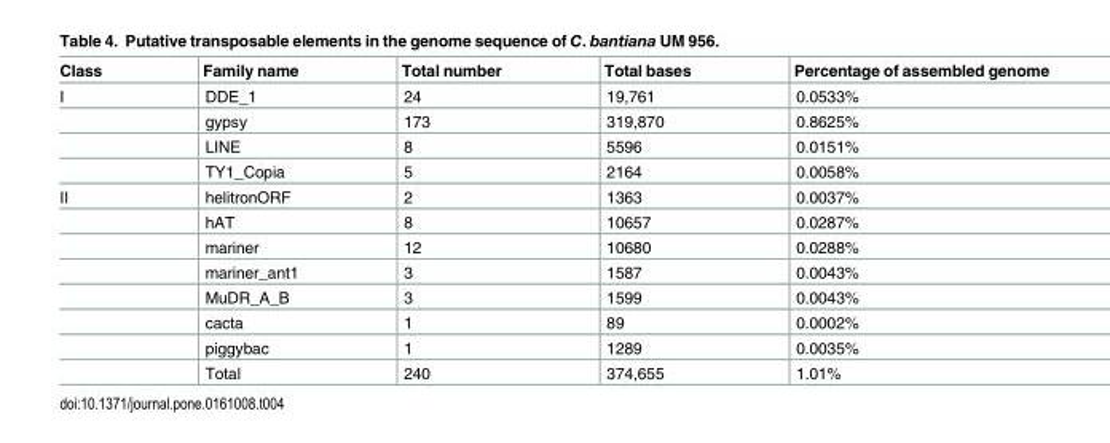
<table><thead><tr><td>Class</td><td>Family name</td><td>Total number</td><td>Total bases</td><td>Percentage of assembled genome</td></tr></thead><tbody><tr><td rowspan="4">I</td><td>DDE_1</td><td>24</td><td>19,761</td><td>0.0533%</td></tr><tr><td>gypsy</td><td>173</td><td>319,870</td><td>0.8625%</td></tr><tr><td>LINE</td><td>8</td><td>5596</td><td>0.0151%</td></tr><tr><td>TY1_Copia</td><td>5</td><td>2164</td><td>0.0058%</td></tr><tr><td rowspan="8">II</td><td>helitronORF</td><td>2</td><td>1363</td><td>0.0037%</td></tr><tr><td>hAT</td><td>8</td><td>10657</td><td>0.0287%</td></tr><tr><td>mariner</td><td>12</td><td>10680</td><td>0.0288%</td></tr><tr><td>mariner_ant1</td><td>3</td><td>1587</td><td>0.0043%</td></tr><tr><td>MuDR_A_B</td><td>3</td><td>1599</td><td>0.0043%</td></tr><tr><td>cacta</td><td>1</td><td>89</td><td>0.0002%</td></tr><tr><td>piggybac</td><td>1</td><td>1289</td><td>0.0035%</td></tr><tr><td>Total</td><td>240</td><td>374,655</td><td>1.01%</td></tr></tbody></table>